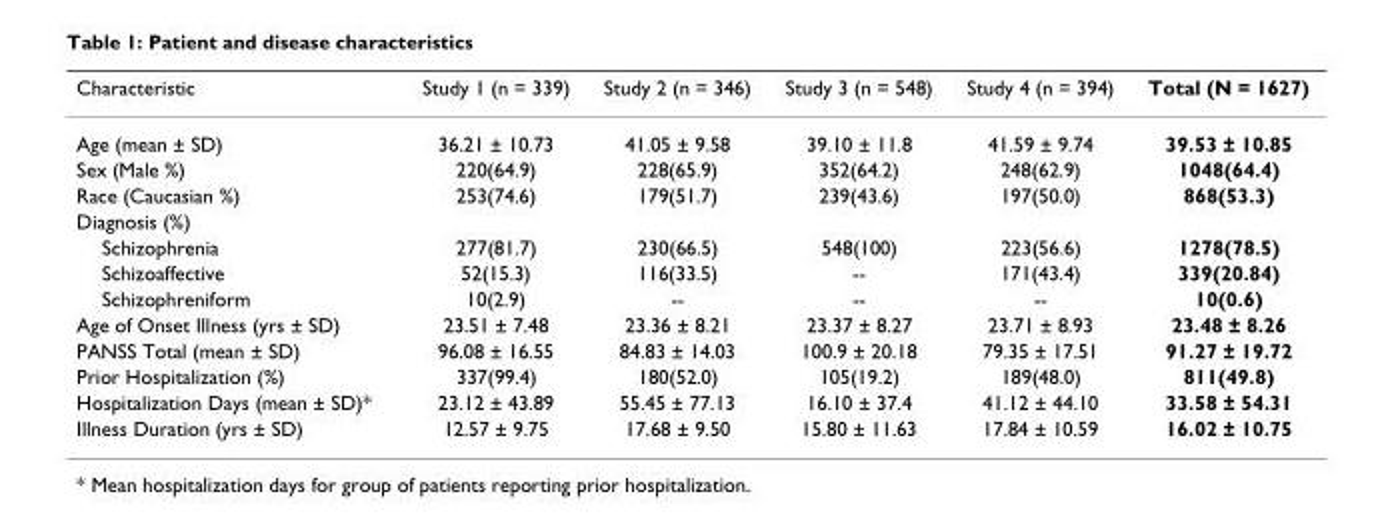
<table><thead><tr><td>Characteristic</td><td>Study 1 (n = 339)</td><td>Study 2 (n = 346)</td><td>Study 3 (n = 548)</td><td>Study 4 (n = 394)</td><td>Total (N = 1627)</td></tr></thead><tbody><tr><td>Age (mean ± SD)</td><td>36.21 ± 10.73</td><td>41.05 ± 9.58</td><td>39.10 ± 11.8</td><td>41.59 ± 9.74</td><td>39.53 ± 10.85</td></tr><tr><td>Sex (Male %)</td><td>220(64.9)</td><td>228(65.9)</td><td>352(64.2)</td><td>248(62.9)</td><td>1048(64.4)</td></tr><tr><td>Race (Caucasian %)</td><td>253(74.6)</td><td>179(51.7)</td><td>239(43.6)</td><td>197(50.0)</td><td>868(53.3)</td></tr><tr><td colspan="6">Diagnosis (%)</td></tr><tr><td>Schizophrenia</td><td>277(81.7)</td><td>230(66.5)</td><td>548(100)</td><td>223(56.6)</td><td>1278(78.5)</td></tr><tr><td>Schizoaffective</td><td>52(15.3)</td><td>116(33.5)</td><td>--</td><td>171(43.4)</td><td>339(20.84)</td></tr><tr><td>Schizophreniform</td><td>10(2.9)</td><td>--</td><td>--</td><td>--</td><td>10(0.6)</td></tr><tr><td>Age of Onset Illness (yrs ± SD)</td><td>23.51 ± 7.48</td><td>23.36 ± 8.21</td><td>23.37 ± 8.27</td><td>23.71 ± 8.93</td><td>23.48 ± 8.26</td></tr><tr><td>PANSS Total (mean ± SD)</td><td>96.08 ± 16.55</td><td>84.83 ± 14.03</td><td>100.9 ± 20.18</td><td>79.35 ± 17.51</td><td>91.27 ± 19.72</td></tr><tr><td>Prior Hospitalization (%)</td><td>337(99.4)</td><td>180(52.0)</td><td>105(19.2)</td><td>189(48.0)</td><td>811(49.8)</td></tr><tr><td>Hospitalization Days (mean ± SD)*</td><td>23.12 ± 43.89</td><td>55.45 ± 77.13</td><td>16.10 ± 37.4</td><td>41.12 ± 44.10</td><td>33.58 ± 54.31</td></tr><tr><td>Illness Duration (yrs ± SD)</td><td>12.57 ± 9.75</td><td>17.68 ± 9.50</td><td>15.80 ± 11.63</td><td>17.84 ± 10.59</td><td>16.02 ± 10.75</td></tr></tbody></table>